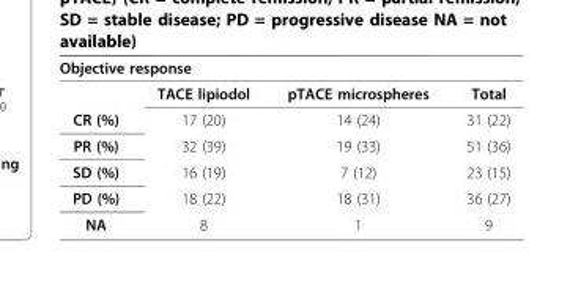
<table><thead><tr><td colspan="3">Objective response</td><td rowspan="2">Total</td></tr><tr><td></td><td>TACE lipiodol</td><td>pTACE microspheres</td></tr></thead><tbody><tr><td>CR (%)</td><td>17 (20)</td><td>14 (24)</td><td>31 (22)</td></tr><tr><td>PR (%)</td><td>32 (39)</td><td>19 (33)</td><td>51 (36)</td></tr><tr><td>SD (%)</td><td>16 (19)</td><td>7 (12)</td><td>23 (15)</td></tr><tr><td>PD (%)</td><td>18 (22)</td><td>18 (31)</td><td>36 (27)</td></tr><tr><td>NA</td><td>8</td><td>1</td><td>9</td></tr></tbody></table>